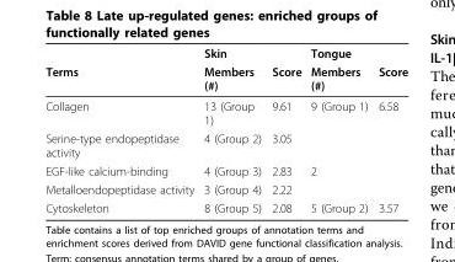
<table><thead><tr><td rowspan="2">Terms</td><td rowspan="2">Skin Members (#)</td><td rowspan="2">Score</td><td rowspan="2">Tongue Members (#)</td><td rowspan="2">Score</td></tr><tr></tr></thead><tbody><tr><td>Collagen</td><td>13 (Group 1)</td><td>9.61</td><td>9 (Group 1)</td><td>6.58</td></tr><tr><td>Serine-type endopeptidase activity</td><td>4 (Group 2)</td><td>3.05</td><td></td><td></td></tr><tr><td>EGF-like calcium-binding</td><td>4 (Group 3)</td><td>2.83</td><td>2</td><td></td></tr><tr><td>Metalloendopeptidase activity</td><td>3 (Group 4)</td><td>2.22</td><td></td><td></td></tr><tr><td>Cytoskeleton</td><td>8 (Group 5)</td><td>2.08</td><td>5 (Group 2)</td><td>3.57</td></tr></tbody></table>